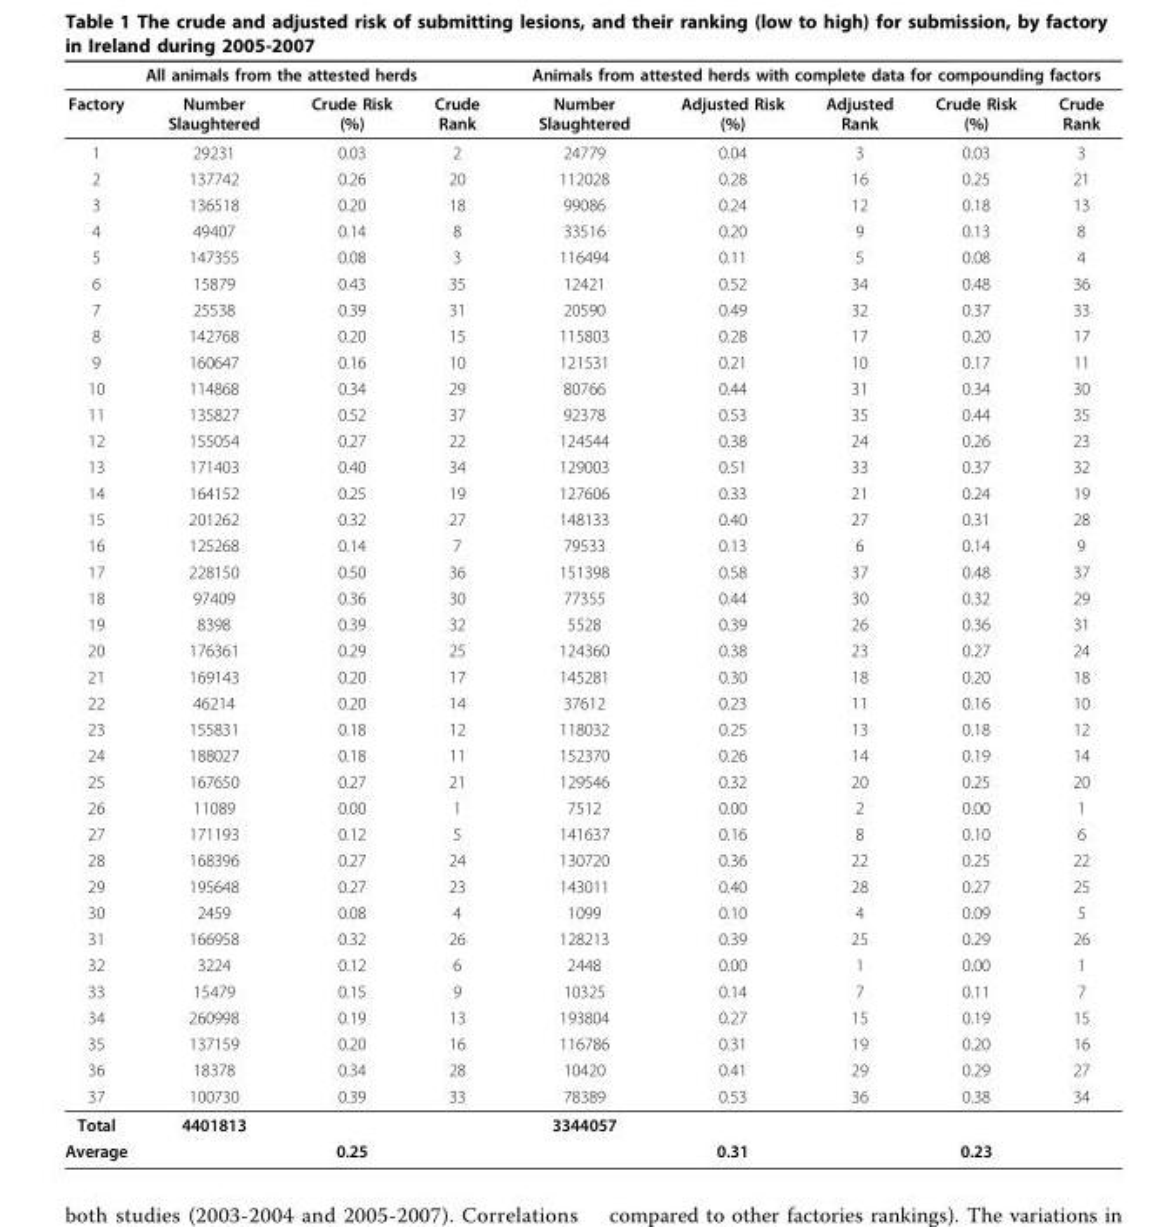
<table><thead><tr><td colspan="4">All animals from the attested herds</td><td colspan="5">Animals from attested herds with complete data for compounding factors</td></tr><tr><td>Factory</td><td>Number Slaughtered</td><td>Crude Risk (%)</td><td>Crude Rank</td><td>Number Slaughtered</td><td>Adjusted Risk (%)</td><td>Adjusted Rank</td><td>Crude Risk (%)</td><td>Crude Rank</td></tr></thead><tbody><tr><td>1</td><td>29231</td><td>0.03</td><td>2</td><td>24779</td><td>0.04</td><td>3</td><td>0.03</td><td>3</td></tr><tr><td>2</td><td>137742</td><td>0.26</td><td>20</td><td>112028</td><td>0.28</td><td>16</td><td>0.25</td><td>21</td></tr><tr><td>3</td><td>136518</td><td>0.20</td><td>18</td><td>99086</td><td>0.24</td><td>12</td><td>0.18</td><td>13</td></tr><tr><td>4</td><td>49407</td><td>0.14</td><td>8</td><td>33516</td><td>0.20</td><td>9</td><td>0.13</td><td>8</td></tr><tr><td>5</td><td>147355</td><td>0.08</td><td>3</td><td>116494</td><td>0.11</td><td>5</td><td>0.08</td><td>4</td></tr><tr><td>6</td><td>15879</td><td>0.43</td><td>35</td><td>12421</td><td>0.52</td><td>34</td><td>0.48</td><td>36</td></tr><tr><td>7</td><td>25538</td><td>0.39</td><td>31</td><td>20590</td><td>0.49</td><td>32</td><td>0.37</td><td>33</td></tr><tr><td>8</td><td>142768</td><td>0.20</td><td>15</td><td>115803</td><td>0.28</td><td>17</td><td>0.20</td><td>17</td></tr><tr><td>9</td><td>160647</td><td>0.16</td><td>10</td><td>121531</td><td>0.21</td><td>10</td><td>0.17</td><td>11</td></tr><tr><td>10</td><td>114868</td><td>0.34</td><td>29</td><td>80766</td><td>0.44</td><td>31</td><td>0.34</td><td>30</td></tr><tr><td>11</td><td>135827</td><td>0.52</td><td>37</td><td>92378</td><td>0.53</td><td>35</td><td>0.44</td><td>35</td></tr><tr><td>12</td><td>155054</td><td>0.27</td><td>22</td><td>124544</td><td>0.38</td><td>24</td><td>0.26</td><td>23</td></tr><tr><td>13</td><td>171403</td><td>0.40</td><td>34</td><td>129003</td><td>0.51</td><td>33</td><td>0.37</td><td>32</td></tr><tr><td>14</td><td>164152</td><td>0.25</td><td>19</td><td>127606</td><td>0.33</td><td>21</td><td>0.24</td><td>19</td></tr><tr><td>15</td><td>201262</td><td>0.32</td><td>27</td><td>148133</td><td>0.40</td><td>27</td><td>0.31</td><td>28</td></tr><tr><td>16</td><td>125268</td><td>0.14</td><td>7</td><td>79533</td><td>0.13</td><td>6</td><td>0.14</td><td>9</td></tr><tr><td>17</td><td>228150</td><td>0.50</td><td>36</td><td>151398</td><td>0.58</td><td>37</td><td>0.48</td><td>37</td></tr><tr><td>18</td><td>97409</td><td>0.36</td><td>30</td><td>77355</td><td>0.44</td><td>30</td><td>0.32</td><td>29</td></tr><tr><td>19</td><td>8398</td><td>0.39</td><td>32</td><td>5528</td><td>0.39</td><td>26</td><td>0.36</td><td>31</td></tr><tr><td>20</td><td>176361</td><td>0.29</td><td>25</td><td>124360</td><td>0.38</td><td>23</td><td>0.27</td><td>24</td></tr><tr><td>21</td><td>169143</td><td>0.20</td><td>17</td><td>145281</td><td>0.30</td><td>18</td><td>0.20</td><td>18</td></tr><tr><td>22</td><td>46214</td><td>0.20</td><td>14</td><td>37612</td><td>0.23</td><td>11</td><td>0.16</td><td>10</td></tr><tr><td>23</td><td>155831</td><td>0.18</td><td>12</td><td>118032</td><td>0.25</td><td>13</td><td>0.18</td><td>12</td></tr><tr><td>24</td><td>188027</td><td>0.18</td><td>11</td><td>152370</td><td>0.26</td><td>14</td><td>0.19</td><td>14</td></tr><tr><td>25</td><td>167650</td><td>0.27</td><td>21</td><td>129546</td><td>0.32</td><td>20</td><td>0.25</td><td>20</td></tr><tr><td>26</td><td>11089</td><td>0.00</td><td>1</td><td>7512</td><td>0.00</td><td>2</td><td>0.00</td><td>1</td></tr><tr><td>27</td><td>171193</td><td>0.12</td><td>5</td><td>141637</td><td>0.16</td><td>8</td><td>0.10</td><td>6</td></tr><tr><td>28</td><td>168396</td><td>0.27</td><td>24</td><td>130720</td><td>0.36</td><td>22</td><td>0.25</td><td>22</td></tr><tr><td>29</td><td>195648</td><td>0.27</td><td>23</td><td>143011</td><td>0.40</td><td>28</td><td>0.27</td><td>25</td></tr><tr><td>30</td><td>2459</td><td>0.08</td><td>4</td><td>1099</td><td>0.10</td><td>4</td><td>0.09</td><td>5</td></tr><tr><td>31</td><td>166958</td><td>0.32</td><td>26</td><td>128213</td><td>0.39</td><td>25</td><td>0.29</td><td>26</td></tr><tr><td>32</td><td>3224</td><td>0.12</td><td>6</td><td>2448</td><td>0.00</td><td>1</td><td>0.00</td><td>1</td></tr><tr><td>33</td><td>15479</td><td>0.15</td><td>9</td><td>10325</td><td>0.14</td><td>7</td><td>0.11</td><td>7</td></tr><tr><td>34</td><td>260998</td><td>0.19</td><td>13</td><td>193804</td><td>0.27</td><td>15</td><td>0.19</td><td>15</td></tr><tr><td>35</td><td>137159</td><td>0.20</td><td>16</td><td>116786</td><td>0.31</td><td>19</td><td>0.20</td><td>16</td></tr><tr><td>36</td><td>18378</td><td>0.34</td><td>28</td><td>10420</td><td>0.41</td><td>29</td><td>0.29</td><td>27</td></tr><tr><td>37</td><td>100730</td><td>0.39</td><td>33</td><td>78389</td><td>0.53</td><td>36</td><td>0.38</td><td>34</td></tr><tr><td>Total</td><td>4401813</td><td></td><td></td><td>3344057</td><td></td><td></td><td></td><td></td></tr><tr><td>Average</td><td></td><td>0.25</td><td></td><td></td><td>0.31</td><td></td><td>0.23</td><td></td></tr></tbody></table>